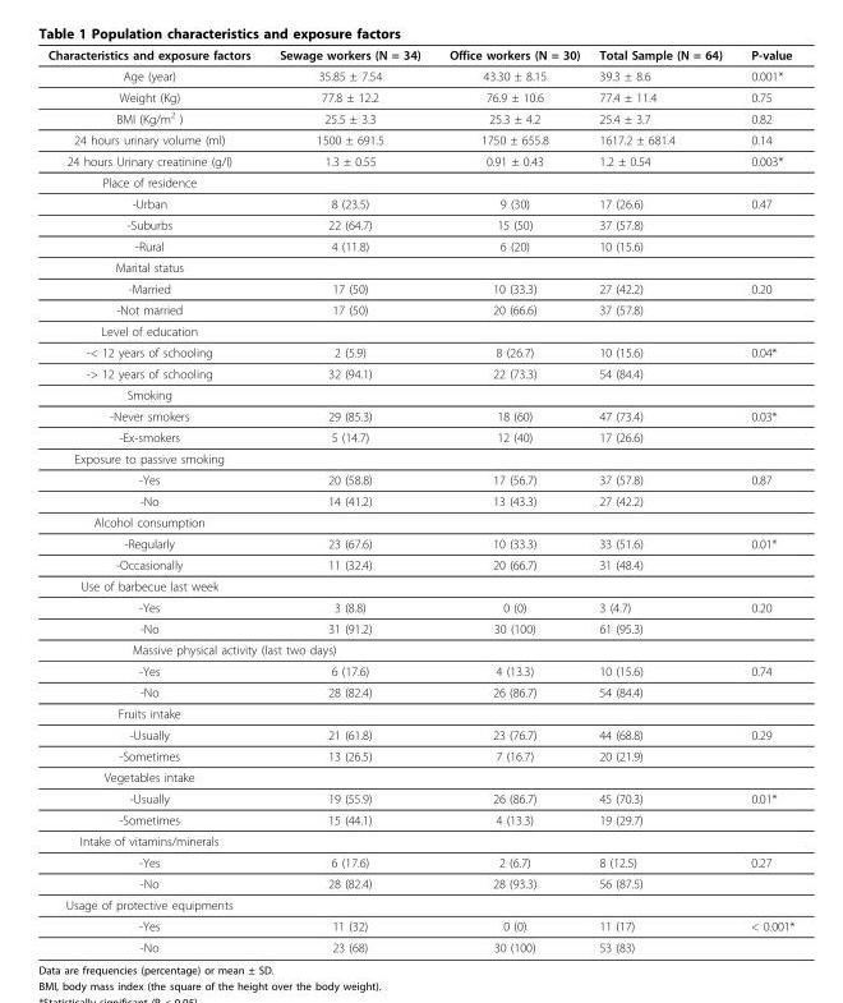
<table><thead><tr><td>Characteristics and exposure factors</td><td>Sewage workers (N = 34)</td><td>Office workers (N = 30)</td><td>Total Sample (N = 64)</td><td>P-value</td></tr></thead><tbody><tr><td>Age (year)</td><td>35.85 ± 7.54</td><td>43.30 ± 8.15</td><td>39.3 ± 8.6</td><td>0.001*</td></tr><tr><td>Weight (Kg)</td><td>77.8 ± 12.2</td><td>76.9 ± 10.6</td><td>77.4 ± 11.4</td><td>0.75</td></tr><tr><td>BMI (Kg/m<sup>2</sup> )</td><td>25.5 ± 3.3</td><td>25.3 ± 4.2</td><td>25.4 ± 3.7</td><td>0.82</td></tr><tr><td>24 hours urinary volume (ml)</td><td>1500 ± 691.5</td><td>1750 ± 655.8</td><td>1617.2 ± 681.4</td><td>0.14</td></tr><tr><td>24 hours Urinary creatinine (g/l)</td><td>1.3 ± 0.55</td><td>0.91 ± 0.43</td><td>1.2 ± 0.54</td><td>0.003*</td></tr><tr><td colspan="5">Place of residence</td></tr><tr><td>-Urban</td><td>8 (23.5)</td><td>9 (30)</td><td>17 (26.6)</td><td>0.47</td></tr><tr><td>-Suburbs</td><td>22 (64.7)</td><td>15 (50)</td><td>37 (57.8)</td><td></td></tr><tr><td>-Rural</td><td>4 (11.8)</td><td>6 (20)</td><td>10 (15.6)</td><td></td></tr><tr><td colspan="5">Marital status</td></tr><tr><td>-Married</td><td>17 (50)</td><td>10 (33.3)</td><td>27 (42.2)</td><td>0.20</td></tr><tr><td>-Not married</td><td>17 (50)</td><td>20 (66.6)</td><td>37 (57.8)</td><td></td></tr><tr><td colspan="5">Level of education</td></tr><tr><td>-&lt; 12 years of schooling</td><td>2 (5.9)</td><td>8 (26.7)</td><td>10 (15.6)</td><td>0.04*</td></tr><tr><td>-&gt; 12 years of schooling</td><td>32 (94.1)</td><td>22 (73.3)</td><td>54 (84.4)</td><td></td></tr><tr><td colspan="5">Smoking</td></tr><tr><td>-Never smokers</td><td>29 (85.3)</td><td>18 (60)</td><td>47 (73.4)</td><td>0.03*</td></tr><tr><td>-Ex-smokers</td><td>5 (14.7)</td><td>12 (40)</td><td>17 (26.6)</td><td></td></tr><tr><td colspan="5">Exposure to passive smoking</td></tr><tr><td>-Yes</td><td>20 (58.8)</td><td>17 (56.7)</td><td>37 (57.8)</td><td>0.87</td></tr><tr><td>-No</td><td>14 (41.2)</td><td>13 (43.3)</td><td>27 (42.2)</td><td></td></tr><tr><td colspan="5">Alcohol consumption</td></tr><tr><td>-Regularly</td><td>23 (67.6)</td><td>10 (33.3)</td><td>33 (51.6)</td><td>0.01*</td></tr><tr><td>-Occasionally</td><td>11 (32.4)</td><td>20 (66.7)</td><td>31 (48.4)</td><td></td></tr><tr><td colspan="5">Use of barbecue last week</td></tr><tr><td>-Yes</td><td>3 (8.8)</td><td>0 (0)</td><td>3 (4.7)</td><td>0.20</td></tr><tr><td>-No</td><td>31 (91.2)</td><td>30 (100)</td><td>61 (95.3)</td><td></td></tr><tr><td colspan="5">Massive physical activity (last two days)</td></tr><tr><td>-Yes</td><td>6 (17.6)</td><td>4 (13.3)</td><td>10 (15.6)</td><td>0.74</td></tr><tr><td>-No</td><td>28 (82.4)</td><td>26 (86.7)</td><td>54 (84.4)</td><td></td></tr><tr><td colspan="5">Fruits intake</td></tr><tr><td>-Usually</td><td>21 (61.8)</td><td>23 (76.7)</td><td>44 (68.8)</td><td>0.29</td></tr><tr><td>-Sometimes</td><td>13 (26.5)</td><td>7 (16.7)</td><td>20 (21.9)</td><td></td></tr><tr><td colspan="5">Vegetables intake</td></tr><tr><td>-Usually</td><td>19 (55.9)</td><td>26 (86.7)</td><td>45 (70.3)</td><td>0.01*</td></tr><tr><td>-Sometimes</td><td>15 (44.1)</td><td>4 (13.3)</td><td>19 (29.7)</td><td></td></tr><tr><td colspan="5">Intake of vitamins/minerals</td></tr><tr><td>-Yes</td><td>6 (17.6)</td><td>2 (6.7)</td><td>8 (12.5)</td><td>0.27</td></tr><tr><td>-No</td><td>28 (82.4)</td><td>28 (93.3)</td><td>56 (87.5)</td><td></td></tr><tr><td colspan="5">Usage of protective equipments</td></tr><tr><td>-Yes</td><td>11 (32)</td><td>0 (0)</td><td>11 (17)</td><td>&lt; 0.001*</td></tr><tr><td>-No</td><td>23 (68)</td><td>30 (100)</td><td>53 (83)</td><td></td></tr></tbody></table>